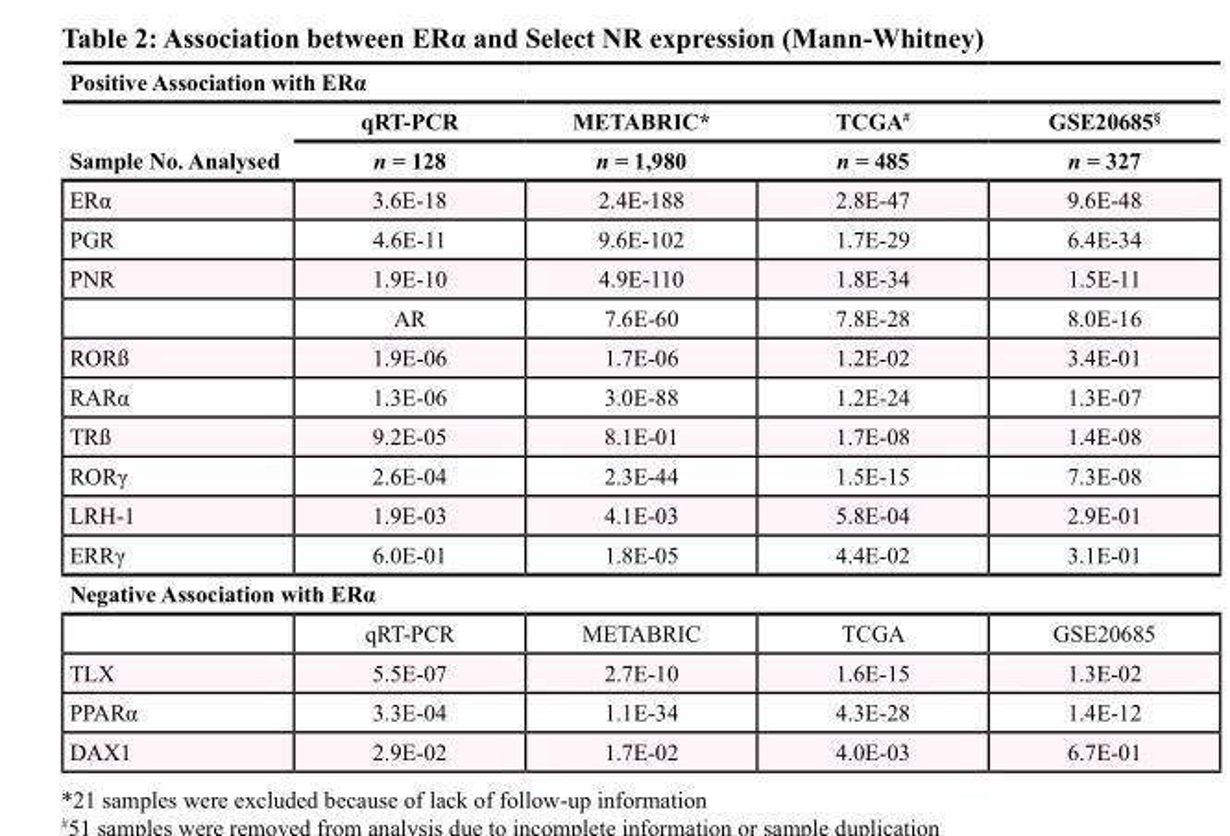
<table><thead><tr><td colspan="5">Positive Association with ERα</td></tr><tr><td rowspan="2">Sample No. Analysed</td><td rowspan="2">qRT-PCR n = 128</td><td rowspan="2">METABRIC* n = 1,980</td><td rowspan="2">TCGA<sup>#</sup> n = 485</td><td rowspan="2">GSE20685<sup>§</sup> n = 327</td></tr><tr></tr></thead><tbody><tr><td>ERα</td><td>3.6E-18</td><td>2.4E-188</td><td>2.8E-47</td><td>9.6E-48</td></tr><tr><td>PGR</td><td>4.6E-11</td><td>9.6E-102</td><td>1.7E-29</td><td>6.4E-34</td></tr><tr><td rowspan="2">PNR</td><td>1.9E-10</td><td>4.9E-110</td><td>1.8E-34</td><td>1.5E-11</td></tr><tr><td>AR</td><td>7.6E-60</td><td>7.8E-28</td><td>8.0E-16</td></tr><tr><td>RORß</td><td>1.9E-06</td><td>1.7E-06</td><td>1.2E-02</td><td>3.4E-01</td></tr><tr><td>RARα</td><td>1.3E-06</td><td>3.0E-88</td><td>1.2E-24</td><td>1.3E-07</td></tr><tr><td>TRß</td><td>9.2E-05</td><td>8.1E-01</td><td>1.7E-08</td><td>1.4E-08</td></tr><tr><td>RORγ</td><td>2.6E-04</td><td>2.3E-44</td><td>1.5E-15</td><td>7.3E-08</td></tr><tr><td>LRH-1</td><td>1.9E-03</td><td>4.1E-03</td><td>5.8E-04</td><td>2.9E-01</td></tr><tr><td>ERRγ</td><td>6.0E-01</td><td>1.8E-05</td><td>4.4E-02</td><td>3.1E-01</td></tr><tr><td colspan="5">Negative Association with ERα</td></tr><tr><td></td><td>qRT-PCR</td><td>METABRIC</td><td>TCGA</td><td>GSE20685</td></tr><tr><td>TLX</td><td>5.5E-07</td><td>2.7E-10</td><td>1.6E-15</td><td>1.3E-02</td></tr><tr><td>PPARα</td><td>3.3E-04</td><td>1.1E-34</td><td>4.3E-28</td><td>1.4E-12</td></tr><tr><td>DAX1</td><td>2.9E-02</td><td>1.7E-02</td><td>4.0E-03</td><td>6.7E-01</td></tr></tbody></table>